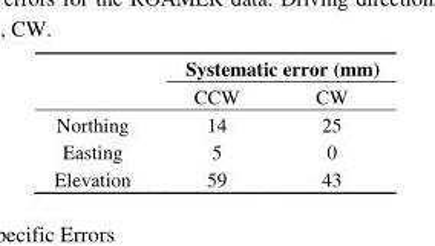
<table><thead><tr><td rowspan="2"></td><td colspan="2">Systematic error (mm)</td></tr><tr><td>CCW</td><td>CW</td></tr></thead><tbody><tr><td>Northing</td><td>14</td><td>25</td></tr><tr><td>Easting</td><td>5</td><td>0</td></tr><tr><td>Elevation</td><td>59</td><td>43</td></tr></tbody></table>